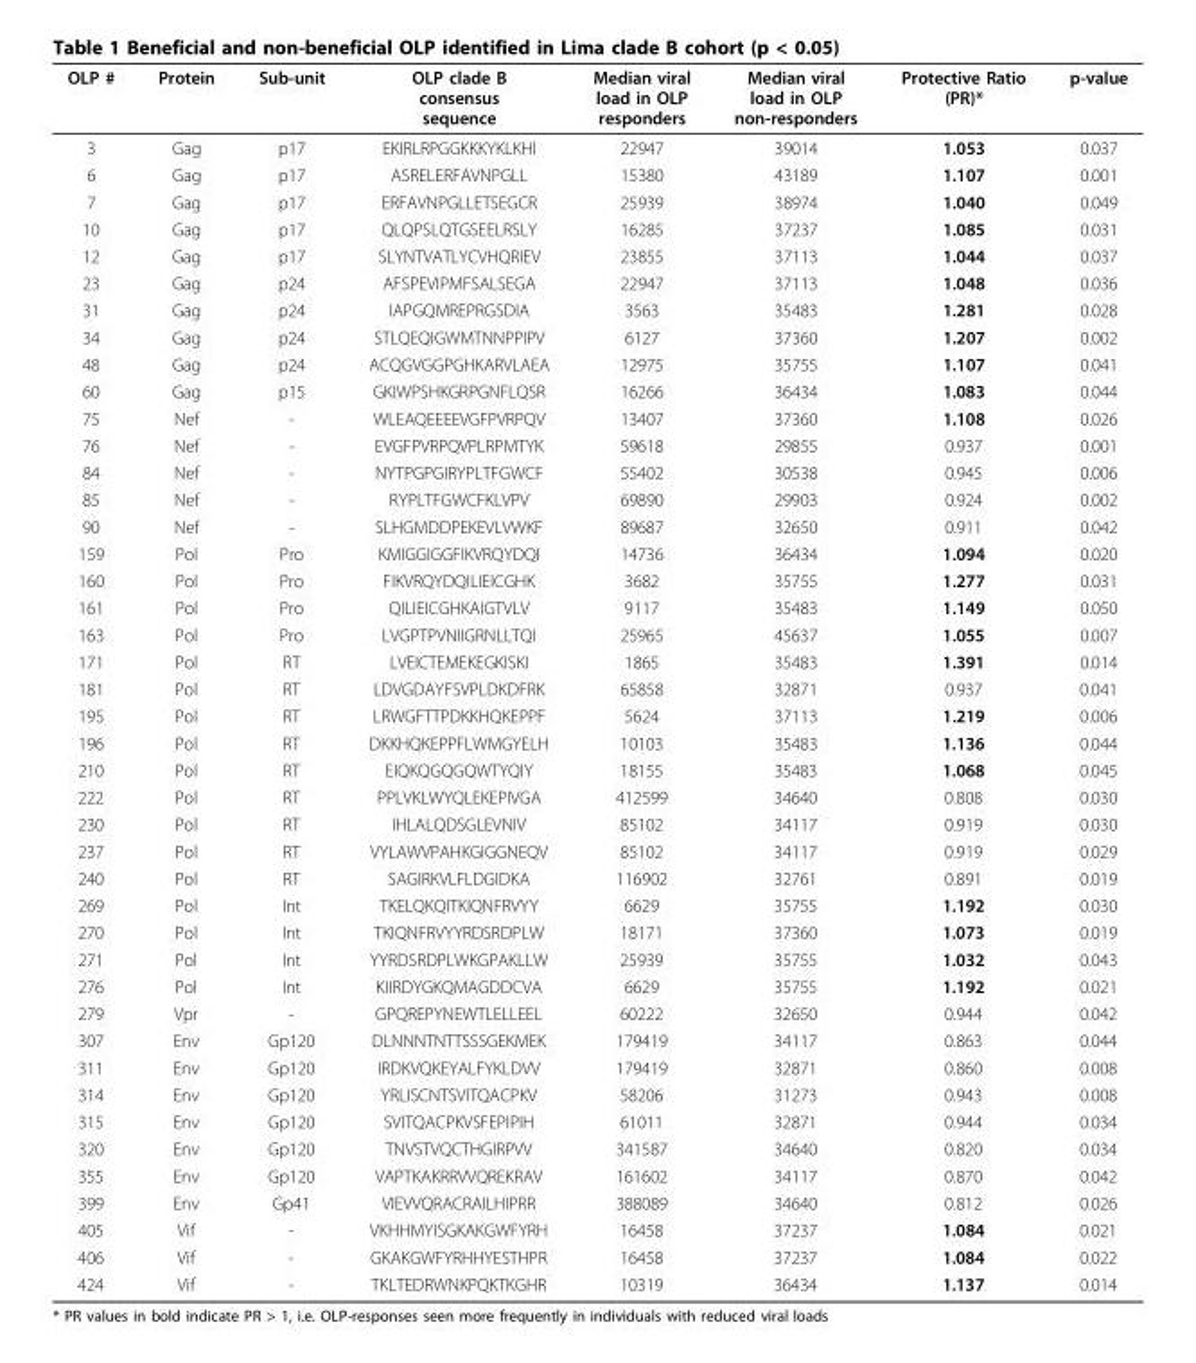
<table><thead><tr><td>OLP #</td><td>Protein</td><td>Sub-unit</td><td>OLP clade B consensus sequence</td><td>Median viral load in OLP responders</td><td>Median viral load in OLP non-responders</td><td>Protective Ratio (PR)*</td><td>p-value</td></tr></thead><tbody><tr><td>3</td><td>Gag</td><td>p17</td><td>EKIRLRPGGKKKYKLKHI</td><td>22947</td><td>39014</td><td>1.053</td><td>0.037</td></tr><tr><td>6</td><td>Gag</td><td>p17</td><td>ASRELERFAVNPGLL</td><td>15380</td><td>43189</td><td>1.107</td><td>0.001</td></tr><tr><td>7</td><td>Gag</td><td>p17</td><td>ERFAVNPGLLETSEGCR</td><td>25939</td><td>38974</td><td>1.040</td><td>0.049</td></tr><tr><td>10</td><td>Gag</td><td>p17</td><td>QLQPSLQTGSEELRSLY</td><td>16285</td><td>37237</td><td>1.085</td><td>0.031</td></tr><tr><td>12</td><td>Gag</td><td>p17</td><td>SLYNTVATLYCVHQRIEV</td><td>23855</td><td>37113</td><td>1.044</td><td>0.037</td></tr><tr><td>23</td><td>Gag</td><td>p24</td><td>AFSPEVIPMFSALSEGA</td><td>22947</td><td>37113</td><td>1.048</td><td>0.036</td></tr><tr><td>31</td><td>Gag</td><td>p24</td><td>IAPGQMREPRGSDIA</td><td>3563</td><td>35483</td><td>1.281</td><td>0.028</td></tr><tr><td>34</td><td>Gag</td><td>p24</td><td>STLQEQIGWMTNNPPIPV</td><td>6127</td><td>37360</td><td>1.207</td><td>0.002</td></tr><tr><td>48</td><td>Gag</td><td>p24</td><td>ACQGVGGPGHKARVLAEA</td><td>12975</td><td>35755</td><td>1.107</td><td>0.041</td></tr><tr><td>60</td><td>Gag</td><td>p15</td><td>GKIWPSHKGRPGNFLQSR</td><td>16266</td><td>36434</td><td>1.083</td><td>0.044</td></tr><tr><td>75</td><td>Nef</td><td>-</td><td>WLEAQEEEEVGFPVRPQV</td><td>13407</td><td>37360</td><td>1.108</td><td>0.026</td></tr><tr><td>76</td><td>Nef</td><td>-</td><td>EVGFPVRPQVPLRPMTYK</td><td>59618</td><td>29855</td><td>0.937</td><td>0.001</td></tr><tr><td>84</td><td>Nef</td><td>-</td><td>NYTPGPGIRYPLTFGWCF</td><td>55402</td><td>30538</td><td>0.945</td><td>0.006</td></tr><tr><td>85</td><td>Nef</td><td>-</td><td>RYPLTFGWCFKLVPV</td><td>69890</td><td>29903</td><td>0.924</td><td>0.002</td></tr><tr><td>90</td><td>Nef</td><td>-</td><td>SLHGMDDPEKEVLVWKF</td><td>89687</td><td>32650</td><td>0.911</td><td>0.042</td></tr><tr><td>159</td><td>Pol</td><td>Pro</td><td>KMIGGIGGFIKVRQYDQI</td><td>14736</td><td>36434</td><td>1.094</td><td>0.020</td></tr><tr><td>160</td><td>Pol</td><td>Pro</td><td>FIKVRQYDQILIEICGHK</td><td>3682</td><td>35755</td><td>1.277</td><td>0.031</td></tr><tr><td>161</td><td>Pol</td><td>Pro</td><td>QILIEICGHKAIGTVLV</td><td>9117</td><td>35483</td><td>1.149</td><td>0.050</td></tr><tr><td>163</td><td>Pol</td><td>Pro</td><td>LVGPTPVNIIGRNLLTQI</td><td>25965</td><td>45637</td><td>1.055</td><td>0.007</td></tr><tr><td>171</td><td>Pol</td><td>RT</td><td>LVEICTEMEKEGKISKI</td><td>1865</td><td>35483</td><td>1.391</td><td>0.014</td></tr><tr><td>181</td><td>Pol</td><td>RT</td><td>LDVGDAYFSVPLDKDFRK</td><td>65858</td><td>32871</td><td>0.937</td><td>0.041</td></tr><tr><td>195</td><td>Pol</td><td>RT</td><td>LRWGFTTPDKKHQKEPPF</td><td>5624</td><td>37113</td><td>1.219</td><td>0.006</td></tr><tr><td>196</td><td>Pol</td><td>RT</td><td>DKKHQKEPPFLWMGYELH</td><td>10103</td><td>35483</td><td>1.136</td><td>0.044</td></tr><tr><td>210</td><td>Pol</td><td>RT</td><td>EIQKQGQGQWTYQIY</td><td>18155</td><td>35483</td><td>1.068</td><td>0.045</td></tr><tr><td>222</td><td>Pol</td><td>RT</td><td>PPLVKLWYQLEKEPIVGA</td><td>412599</td><td>34640</td><td>0.808</td><td>0.030</td></tr><tr><td>230</td><td>Pol</td><td>RT</td><td>IHLALQDSGLEVNIV</td><td>85102</td><td>34117</td><td>0.919</td><td>0.030</td></tr><tr><td>237</td><td>Pol</td><td>RT</td><td>VYLAWVPAHKGIGGNEQV</td><td>85102</td><td>34117</td><td>0.919</td><td>0.029</td></tr><tr><td>240</td><td>Pol</td><td>RT</td><td>SAGIRKVLFLDGIDKA</td><td>116902</td><td>32761</td><td>0.891</td><td>0.019</td></tr><tr><td>269</td><td>Pol</td><td>Int</td><td>TKELQKQITKIQNFRVYY</td><td>6629</td><td>35755</td><td>1.192</td><td>0.030</td></tr><tr><td>270</td><td>Pol</td><td>Int</td><td>TKIQNFRVYYRDSRDPLW</td><td>18171</td><td>37360</td><td>1.073</td><td>0.019</td></tr><tr><td>271</td><td>Pol</td><td>Int</td><td>YYRDSRDPLWKGPAKLLW</td><td>25939</td><td>35755</td><td>1.032</td><td>0.043</td></tr><tr><td>276</td><td>Pol</td><td>Int</td><td>KIIRDYGKQMAGDDCVA</td><td>6629</td><td>35755</td><td>1.192</td><td>0.021</td></tr><tr><td>279</td><td>Vpr</td><td>-</td><td>GPQREPYNEWTLELLEEL</td><td>60222</td><td>32650</td><td>0.944</td><td>0.042</td></tr><tr><td>307</td><td>Env</td><td>Gp120</td><td>DLNNNTNTTSSSGEKMEK</td><td>179419</td><td>34117</td><td>0.863</td><td>0.044</td></tr><tr><td>311</td><td>Env</td><td>Gp120</td><td>IRDKVQKEYALFYKLDVV</td><td>179419</td><td>32871</td><td>0.860</td><td>0.008</td></tr><tr><td>314</td><td>Env</td><td>Gp120</td><td>YRLISCNTSVITQACPKV</td><td>58206</td><td>31273</td><td>0.943</td><td>0.008</td></tr><tr><td>315</td><td>Env</td><td>Gp120</td><td>SVITQACPKVSFEPIPIH</td><td>61011</td><td>32871</td><td>0.944</td><td>0.034</td></tr><tr><td>320</td><td>Env</td><td>Gp120</td><td>TNVSTVQCTHGIRPVV</td><td>341587</td><td>34640</td><td>0.820</td><td>0.034</td></tr><tr><td>355</td><td>Env</td><td>Gp120</td><td>VAPTKAKRRVVQREKRAV</td><td>161602</td><td>34117</td><td>0.870</td><td>0.042</td></tr><tr><td>399</td><td>Env</td><td>Gp41</td><td>VIEVVQRACRAILHIPRR</td><td>388089</td><td>34640</td><td>0.812</td><td>0.026</td></tr><tr><td>405</td><td>Vif</td><td>-</td><td>VKHHMYISGKAKGWFYRH</td><td>16458</td><td>37237</td><td>1.084</td><td>0.021</td></tr><tr><td>406</td><td>Vif</td><td>-</td><td>GKAKGWFYRHHYESTHPR</td><td>16458</td><td>37237</td><td>1.084</td><td>0.022</td></tr><tr><td>424</td><td>Vif</td><td>-</td><td>TKLTEDRWNKPQKTKGHR</td><td>10319</td><td>36434</td><td>1.137</td><td>0.014</td></tr></tbody></table>